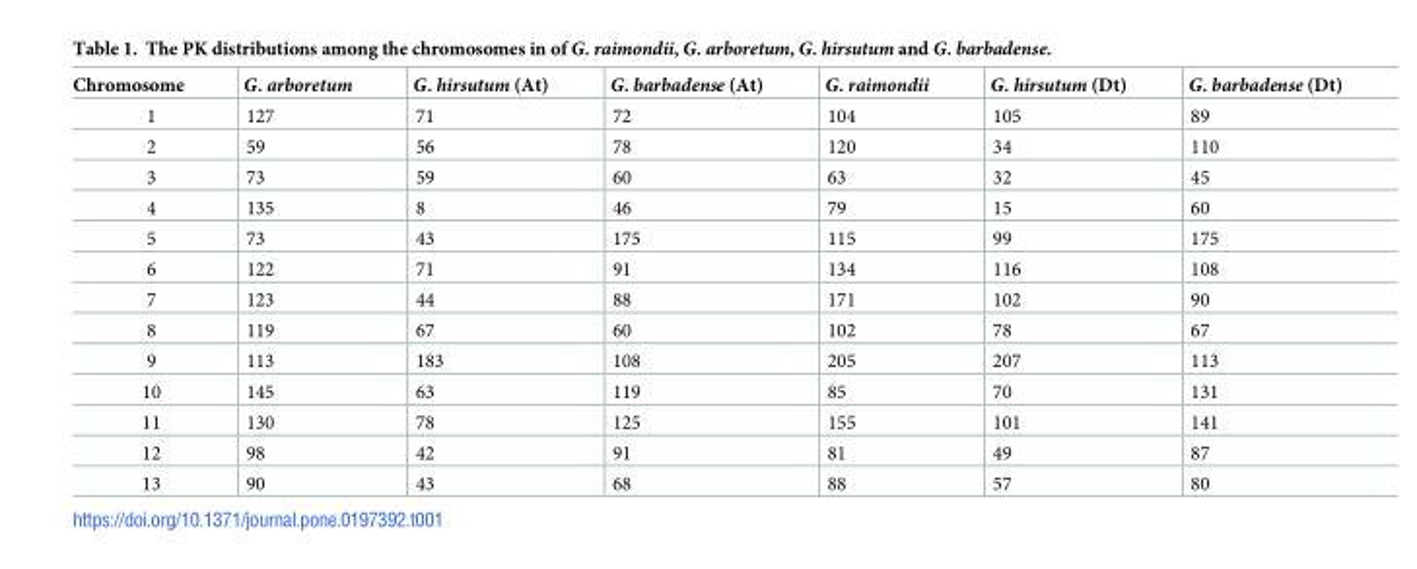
<table><thead><tr><td>Chromosome</td><td>G. arboretum</td><td>G. hirsutum (At)</td><td>G. barbadense (At)</td><td>G. raimondii</td><td>G. hirsutum (Dt)</td><td>G. barbadense (Dt)</td></tr></thead><tbody><tr><td>1</td><td>127</td><td>71</td><td>72</td><td>104</td><td>105</td><td>89</td></tr><tr><td>2</td><td>59</td><td>56</td><td>78</td><td>120</td><td>34</td><td>110</td></tr><tr><td>3</td><td>73</td><td>59</td><td>60</td><td>63</td><td>32</td><td>45</td></tr><tr><td>4</td><td>135</td><td>8</td><td>46</td><td>79</td><td>15</td><td>60</td></tr><tr><td>5</td><td>73</td><td>43</td><td>175</td><td>115</td><td>99</td><td>175</td></tr><tr><td>6</td><td>122</td><td>71</td><td>91</td><td>134</td><td>116</td><td>108</td></tr><tr><td>7</td><td>123</td><td>44</td><td>88</td><td>171</td><td>102</td><td>90</td></tr><tr><td>8</td><td>119</td><td>67</td><td>60</td><td>102</td><td>78</td><td>67</td></tr><tr><td>9</td><td>113</td><td>183</td><td>108</td><td>205</td><td>207</td><td>113</td></tr><tr><td>10</td><td>145</td><td>63</td><td>119</td><td>85</td><td>70</td><td>131</td></tr><tr><td>11</td><td>130</td><td>78</td><td>125</td><td>155</td><td>101</td><td>141</td></tr><tr><td>12</td><td>98</td><td>42</td><td>91</td><td>81</td><td>49</td><td>87</td></tr><tr><td>13</td><td>90</td><td>43</td><td>68</td><td>88</td><td>57</td><td>80</td></tr></tbody></table>